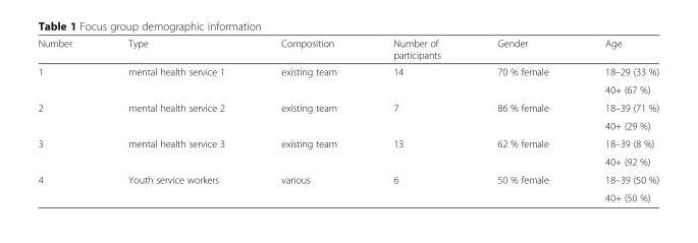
<table><thead><tr><td>Number</td><td>Type</td><td>Composition</td><td>Number of participants</td><td>Gender</td><td>Age</td></tr></thead><tbody><tr><td rowspan="2">1</td><td rowspan="2">mental health service 1</td><td rowspan="2">existing team</td><td rowspan="2">14</td><td rowspan="2">70 % female</td><td>18–29 (33 %)</td></tr><tr><td>40+ (67 %)</td></tr><tr><td rowspan="2">2</td><td rowspan="2">mental health service 2</td><td rowspan="2">existing team</td><td rowspan="2">7</td><td rowspan="2">86 % female</td><td>18–39 (71 %)</td></tr><tr><td>40+ (29 %)</td></tr><tr><td rowspan="2">3</td><td rowspan="2">mental health service 3</td><td rowspan="2">existing team</td><td rowspan="2">13</td><td rowspan="2">62 % female</td><td>18–39 (8 %)</td></tr><tr><td>40+ (92 %)</td></tr><tr><td rowspan="2">4</td><td rowspan="2">Youth service workers</td><td rowspan="2">various</td><td rowspan="2">6</td><td rowspan="2">50 % female</td><td>18–39 (50 %)</td></tr><tr><td>40+ (50 %)</td></tr></tbody></table>